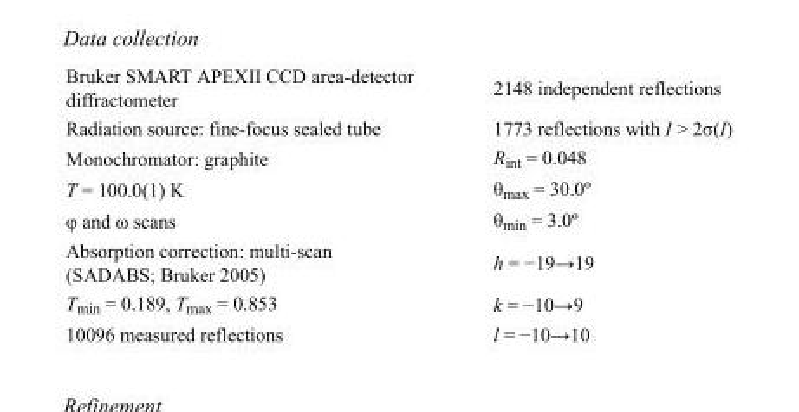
<table><tbody><tr><td>Bruker SMART APEXII CCD area-detector diffractometer</td><td>2148 independent reflections</td></tr><tr><td>Radiation source: fine-focus sealed tube</td><td>1773 reflections with I &gt; 2σ(I)</td></tr><tr><td>Monochromator: graphite</td><td>R<sub>int</sub> = 0.048</td></tr><tr><td>T = 100.0(1) K</td><td>θ<sub>max</sub> = 30.0º</td></tr><tr><td>φ and ω scans</td><td>θ<sub>min</sub> = 3.0º</td></tr><tr><td>Absorption correction: multi-scan (SADABS; Bruker 2005)</td><td>h = −19→19</td></tr><tr><td>T<sub>min</sub> = 0.189, T<sub>max</sub> = 0.853</td><td>k = −10→9</td></tr><tr><td>10096 measured reflections</td><td>l = −10→10</td></tr></tbody></table>